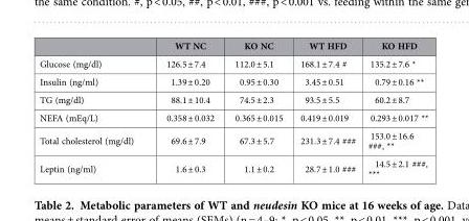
<table><thead><tr><td></td><td>WT NC</td><td>KO NC</td><td>WT HFD</td><td>KO HFD</td></tr></thead><tbody><tr><td>Glucose (mg/dl)</td><td>126.5 ± 7.4</td><td>112.0 ± 5.1</td><td>168.1 ± 7.4 #</td><td>135.2 ± 7.6 *</td></tr><tr><td>Insulin (ng/ml)</td><td>1.39 ± 0.20</td><td>0.95 ± 0.30</td><td>3.45 ± 0.51</td><td>0.79 ± 0.16 **</td></tr><tr><td>TG (mg/dl)</td><td>88.1 ± 10.4</td><td>74.5 ± 2.3</td><td>93.5 ± 5.5</td><td>60.2 ± 8.7</td></tr><tr><td>NEFA (mEq/L)</td><td>0.358 ± 0.032</td><td>0.365 ± 0.015</td><td>0.419 ± 0.019</td><td>0.293 ± 0.017 **</td></tr><tr><td>Total cholesterol (mg/dl)</td><td>69.6 ± 7.9</td><td>67.3 ± 5.7</td><td>231.3 ± 7.4 ###</td><td>153.0 ± 16.6 ###, **</td></tr><tr><td>Leptin (ng/ml)</td><td>1.6 ± 0.3</td><td>1.1 ± 0.2</td><td>28.7 ± 1.0 ###</td><td>14.5 ± 2.1 ###, ***</td></tr></tbody></table>